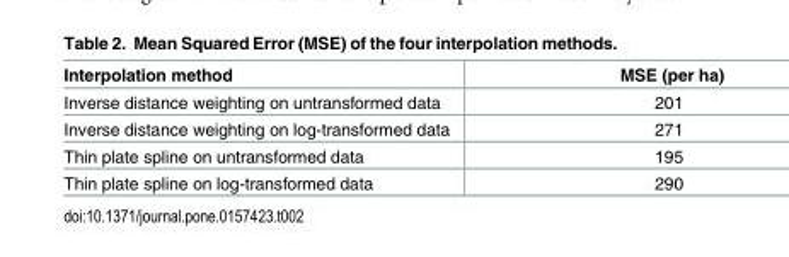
<table><thead><tr><td>Interpolation method</td><td>MSE (per ha)</td></tr></thead><tbody><tr><td>Inverse distance weighting on untransformed data</td><td>201</td></tr><tr><td>Inverse distance weighting on log-transformed data</td><td>271</td></tr><tr><td>Thin plate spline on untransformed data</td><td>195</td></tr><tr><td>Thin plate spline on log-transformed data</td><td>290</td></tr></tbody></table>